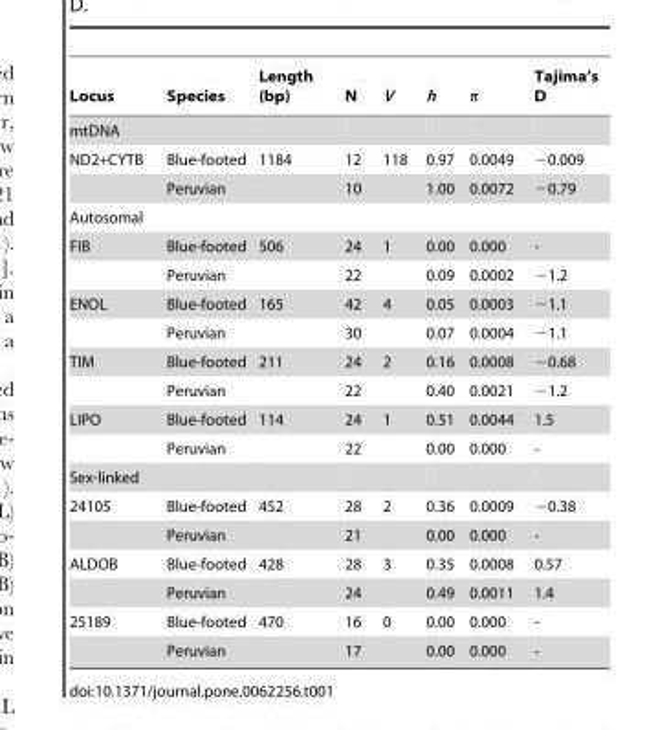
<table><thead><tr><td>Locus</td><td>Species</td><td>Length (bp)</td><td>N</td><td>V</td><td>h</td><td>π</td><td>Tajima’s D</td></tr></thead><tbody><tr><td colspan="8">mtDNA</td></tr><tr><td rowspan="2">ND2+CYTB</td><td>Blue-footed</td><td>1184</td><td>12</td><td>118</td><td>0.97</td><td>0.0049</td><td>−0.009</td></tr><tr><td>Peruvian</td><td></td><td>10</td><td></td><td>1.00</td><td>0.0072</td><td>−0.79</td></tr><tr><td colspan="8">Autosomal</td></tr><tr><td rowspan="2">FIB</td><td>Blue-footed</td><td>506</td><td>24</td><td>1</td><td>0.00</td><td>0.000</td><td>-</td></tr><tr><td>Peruvian</td><td></td><td>22</td><td></td><td>0.09</td><td>0.0002</td><td>−1.2</td></tr><tr><td rowspan="2">ENOL</td><td>Blue-footed</td><td>165</td><td>42</td><td>4</td><td>0.05</td><td>0.0003</td><td>−1.1</td></tr><tr><td>Peruvian</td><td></td><td>30</td><td></td><td>0.07</td><td>0.0004</td><td>−1.1</td></tr><tr><td rowspan="2">TIM</td><td>Blue-footed</td><td>211</td><td>24</td><td>2</td><td>0.16</td><td>0.0008</td><td>−0.68</td></tr><tr><td>Peruvian</td><td></td><td>22</td><td></td><td>0.40</td><td>0.0021</td><td>−1.2</td></tr><tr><td rowspan="2">LIPO</td><td>Blue-footed</td><td>114</td><td>24</td><td>1</td><td>0.51</td><td>0.0044</td><td>1.5</td></tr><tr><td>Peruvian</td><td></td><td>22</td><td></td><td>0.00</td><td>0.000</td><td>-</td></tr><tr><td colspan="8">Sex-linked</td></tr><tr><td rowspan="2">24105</td><td>Blue-footed</td><td>452</td><td>28</td><td>2</td><td>0.36</td><td>0.0009</td><td>−0.38</td></tr><tr><td>Peruvian</td><td></td><td>21</td><td></td><td>0.00</td><td>0.000</td><td>-</td></tr><tr><td rowspan="2">ALDOB</td><td>Blue-footed</td><td>428</td><td>28</td><td>3</td><td>0.35</td><td>0.0008</td><td>0.57</td></tr><tr><td>Peruvian</td><td></td><td>24</td><td></td><td>0.49</td><td>0.0011</td><td>1.4</td></tr><tr><td rowspan="2">25189</td><td>Blue-footed</td><td>470</td><td>16</td><td>0</td><td>0.00</td><td>0.000</td><td>-</td></tr><tr><td>Peruvian</td><td></td><td>17</td><td></td><td>0.00</td><td>0.000</td><td>-</td></tr></tbody></table>